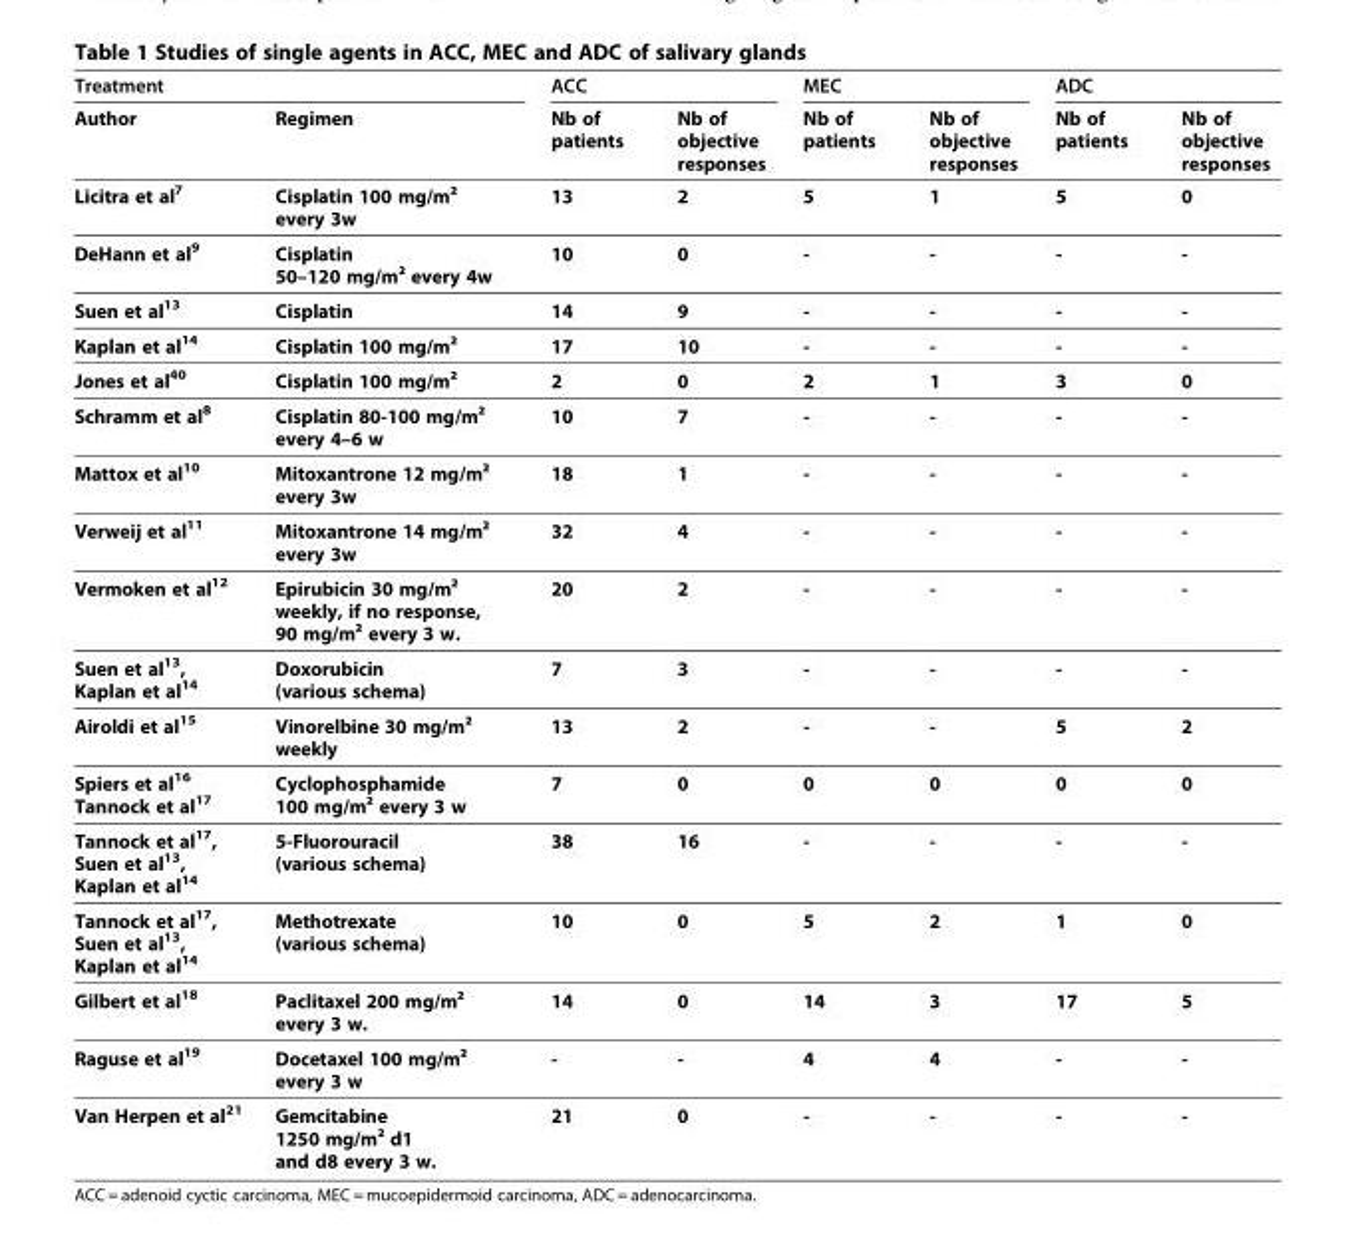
<table><thead><tr><td colspan="2">Treatment</td><td colspan="2">ACC</td><td colspan="2">MEC</td><td colspan="2">ADC</td></tr><tr><td>Author</td><td>Regimen</td><td>Nb of patients</td><td>Nb of objective responses</td><td>Nb of patients</td><td>Nb of objective responses</td><td>Nb of patients</td><td>Nb of objective responses</td></tr></thead><tbody><tr><td>Licitra et al<sup>7</sup></td><td>Cisplatin 100 mg/m² every 3w</td><td>13</td><td>2</td><td>5</td><td>1</td><td>5</td><td>0</td></tr><tr><td>DeHann et al<sup>9</sup></td><td>Cisplatin 50–120 mg/m² every 4w</td><td>10</td><td>0</td><td>-</td><td>-</td><td>-</td><td>-</td></tr><tr><td>Suen et al<sup>13</sup></td><td>Cisplatin</td><td>14</td><td>9</td><td>-</td><td>-</td><td>-</td><td>-</td></tr><tr><td>Kaplan et al<sup>14</sup></td><td>Cisplatin 100 mg/m²</td><td>17</td><td>10</td><td>-</td><td>-</td><td>-</td><td>-</td></tr><tr><td>Jones et al<sup>40</sup></td><td>Cisplatin 100 mg/m²</td><td>2</td><td>0</td><td>2</td><td>1</td><td>3</td><td>0</td></tr><tr><td>Schramm et al<sup>8</sup></td><td>Cisplatin 80-100 mg/m² every 4–6 w</td><td>10</td><td>7</td><td>-</td><td>-</td><td>-</td><td>-</td></tr><tr><td>Mattox et al<sup>10</sup></td><td>Mitoxantrone 12 mg/m² every 3w</td><td>18</td><td>1</td><td>-</td><td>-</td><td>-</td><td>-</td></tr><tr><td>Verweij et al<sup>11</sup></td><td>Mitoxantrone 14 mg/m² every 3w</td><td>32</td><td>4</td><td>-</td><td>-</td><td>-</td><td>-</td></tr><tr><td>Vermoken et al<sup>12</sup></td><td>Epirubicin 30 mg/m² weekly, if no response, 90 mg/m² every 3 w.</td><td>20</td><td>2</td><td>-</td><td>-</td><td>-</td><td>-</td></tr><tr><td>Suen et al<sup>13</sup>, Kaplan et al<sup>14</sup></td><td>Doxorubicin (various schema)</td><td>7</td><td>3</td><td>-</td><td>-</td><td>-</td><td>-</td></tr><tr><td>Airoldi et al<sup>15</sup></td><td>Vinorelbine 30 mg/m² weekly</td><td>13</td><td>2</td><td>-</td><td>-</td><td>5</td><td>2</td></tr><tr><td>Spiers et al<sup>16</sup> Tannock et al<sup>17</sup></td><td>Cyclophosphamide 100 mg/m² every 3 w</td><td>7</td><td>0</td><td>0</td><td>0</td><td>0</td><td>0</td></tr><tr><td>Tannock et al<sup>17</sup>, Suen et al<sup>13</sup>, Kaplan et al<sup>14</sup></td><td>5-Fluorouracil (various schema)</td><td>38</td><td>16</td><td>-</td><td>-</td><td>-</td><td>-</td></tr><tr><td>Tannock et al<sup>17</sup>, Suen et al<sup>13</sup>, Kaplan et al<sup>14</sup></td><td>Methotrexate (various schema)</td><td>10</td><td>0</td><td>5</td><td>2</td><td>1</td><td>0</td></tr><tr><td>Gilbert et al<sup>18</sup></td><td>Paclitaxel 200 mg/m² every 3 w.</td><td>14</td><td>0</td><td>14</td><td>3</td><td>17</td><td>5</td></tr><tr><td>Raguse et al<sup>19</sup></td><td>Docetaxel 100 mg/m² every 3 w</td><td>-</td><td>-</td><td>4</td><td>4</td><td>-</td><td>-</td></tr><tr><td>Van Herpen et al<sup>21</sup></td><td>Gemcitabine 1250 mg/m² d1 and d8 every 3 w.</td><td>21</td><td>0</td><td>-</td><td>-</td><td>-</td><td>-</td></tr></tbody></table>